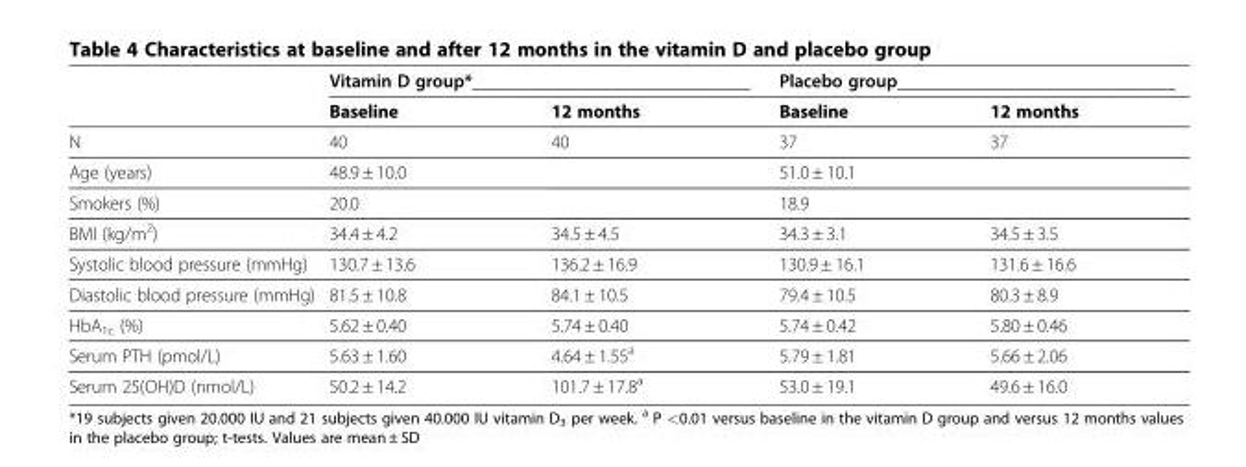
<table><thead><tr><td rowspan="2"></td><td colspan="2">Vitamin D group*______________________________</td><td colspan="2">Placebo group______________________________</td></tr><tr><td>Baseline</td><td>12 months</td><td>Baseline</td><td>12 months</td></tr></thead><tbody><tr><td>N</td><td>40</td><td>40</td><td>37</td><td>37</td></tr><tr><td>Age (years)</td><td>48.9 ± 10.0</td><td></td><td>51.0 ± 10.1</td><td></td></tr><tr><td>Smokers (%)</td><td>20.0</td><td></td><td>18.9</td><td></td></tr><tr><td>BMI (kg/m<sup>2</sup>)</td><td>34.4 ± 4.2</td><td>34.5 ± 4.5</td><td>34.3 ± 3.1</td><td>34.5 ± 3.5</td></tr><tr><td>Systolic blood pressure (mmHg)</td><td>130.7 ± 13.6</td><td>136.2 ± 16.9</td><td>130.9 ± 16.1</td><td>131.6 ± 16.6</td></tr><tr><td>Diastolic blood pressure (mmHg)</td><td>81.5 ± 10.8</td><td>84.1 ± 10.5</td><td>79.4 ± 10.5</td><td>80.3 ± 8.9</td></tr><tr><td>HbA<sub>1c</sub> (%)</td><td>5.62 ± 0.40</td><td>5.74 ± 0.40</td><td>5.74 ± 0.42</td><td>5.80 ± 0.46</td></tr><tr><td>Serum PTH (pmol/L)</td><td>5.63 ± 1.60</td><td>4.64 ± 1.55<sup>a</sup></td><td>5.79 ± 1.81</td><td>5.66 ± 2.06</td></tr><tr><td>Serum 25(OH)D (nmol/L)</td><td>50.2 ± 14.2</td><td>101.7 ± 17.8<sup>a</sup></td><td>53.0 ± 19.1</td><td>49.6 ± 16.0</td></tr></tbody></table>